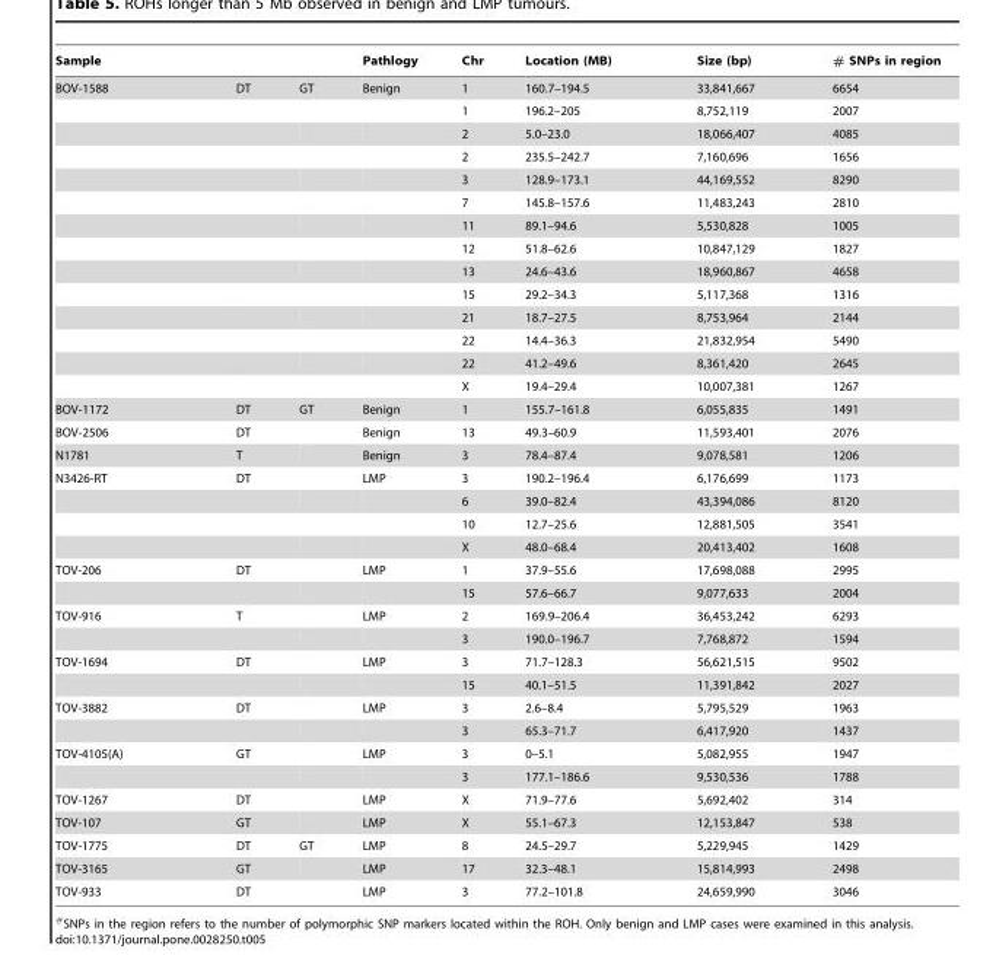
<table><thead><tr><td colspan="3">Sample</td><td rowspan="2">Pathlogy Benign</td><td rowspan="2">Chr 1</td><td rowspan="2">Location (MB) 160.7–194.5</td><td rowspan="2">Size (bp) 33,841,667</td><td rowspan="2"># SNPs in region 6654</td></tr><tr><td>BOV-1588</td><td>DT</td><td>GT</td></tr></thead><tbody><tr><td></td><td></td><td></td><td></td><td>1</td><td>196.2–205</td><td>8,752,119</td><td>2007</td></tr><tr><td></td><td></td><td></td><td></td><td>2</td><td>5.0–23.0</td><td>18,066,407</td><td>4085</td></tr><tr><td></td><td></td><td></td><td></td><td>2</td><td>235.5–242.7</td><td>7,160,696</td><td>1656</td></tr><tr><td></td><td></td><td></td><td></td><td>3</td><td>128.9–173.1</td><td>44,169,552</td><td>8290</td></tr><tr><td></td><td></td><td></td><td></td><td>7</td><td>145.8–157.6</td><td>11,483,243</td><td>2810</td></tr><tr><td></td><td></td><td></td><td></td><td>11</td><td>89.1–94.6</td><td>5,530,828</td><td>1005</td></tr><tr><td></td><td></td><td></td><td></td><td>12</td><td>51.8–62.6</td><td>10,847,129</td><td>1827</td></tr><tr><td></td><td></td><td></td><td></td><td>13</td><td>24.6–43.6</td><td>18,960,867</td><td>4658</td></tr><tr><td></td><td></td><td></td><td></td><td>15</td><td>29.2–34.3</td><td>5,117,368</td><td>1316</td></tr><tr><td></td><td></td><td></td><td></td><td>21</td><td>18.7–27.5</td><td>8,753,964</td><td>2144</td></tr><tr><td></td><td></td><td></td><td></td><td>22</td><td>14.4–36.3</td><td>21,832,954</td><td>5490</td></tr><tr><td></td><td></td><td></td><td></td><td>22</td><td>41.2–49.6</td><td>8,361,420</td><td>2645</td></tr><tr><td></td><td></td><td></td><td></td><td>X</td><td>19.4–29.4</td><td>10,007,381</td><td>1267</td></tr><tr><td>BOV-1172</td><td>DT</td><td>GT</td><td>Benign</td><td>1</td><td>155.7–161.8</td><td>6,055,835</td><td>1491</td></tr><tr><td>BOV-2506</td><td>DT</td><td></td><td>Benign</td><td>13</td><td>49.3–60.9</td><td>11,593,401</td><td>2076</td></tr><tr><td>N1781</td><td>T</td><td></td><td>Benign</td><td>3</td><td>78.4–87.4</td><td>9,078,581</td><td>1206</td></tr><tr><td rowspan="4">N3426-RT</td><td>DT</td><td></td><td>LMP</td><td>3</td><td>190.2–196.4</td><td>6,176,699</td><td>1173</td></tr><tr><td></td><td></td><td></td><td>6</td><td>39.0–82.4</td><td>43,394,086</td><td>8120</td></tr><tr><td></td><td></td><td></td><td>10</td><td>12.7–25.6</td><td>12,881,505</td><td>3541</td></tr><tr><td></td><td></td><td></td><td>X</td><td>48.0–68.4</td><td>20,413,402</td><td>1608</td></tr><tr><td rowspan="2">TOV-206</td><td>DT</td><td></td><td>LMP</td><td>1</td><td>37.9–55.6</td><td>17,698,088</td><td>2995</td></tr><tr><td></td><td></td><td></td><td>15</td><td>57.6–66.7</td><td>9,077,633</td><td>2004</td></tr><tr><td rowspan="2">TOV-916</td><td>T</td><td></td><td>LMP</td><td>2</td><td>169.9–206.4</td><td>36,453,242</td><td>6293</td></tr><tr><td></td><td></td><td></td><td>3</td><td>190.0–196.7</td><td>7,768,872</td><td>1594</td></tr><tr><td rowspan="2">TOV-1694</td><td>DT</td><td></td><td>LMP</td><td>3</td><td>71.7–128.3</td><td>56,621,515</td><td>9502</td></tr><tr><td></td><td></td><td></td><td>15</td><td>40.1–51.5</td><td>11,391,842</td><td>2027</td></tr><tr><td rowspan="2">TOV-3882</td><td>DT</td><td></td><td>LMP</td><td>3</td><td>2.6–8.4</td><td>5,795,529</td><td>1963</td></tr><tr><td></td><td></td><td></td><td>3</td><td>65.3–71.7</td><td>6,417,920</td><td>1437</td></tr><tr><td rowspan="2">TOV-4105(A)</td><td>GT</td><td></td><td>LMP</td><td>3</td><td>0–5.1</td><td>5,082,955</td><td>1947</td></tr><tr><td></td><td></td><td></td><td>3</td><td>177.1–186.6</td><td>9,530,536</td><td>1788</td></tr><tr><td>TOV-1267</td><td>DT</td><td></td><td>LMP</td><td>X</td><td>71.9–77.6</td><td>5,692,402</td><td>314</td></tr><tr><td>TOV-107</td><td>GT</td><td></td><td>LMP</td><td>X</td><td>55.1–67.3</td><td>12,153,847</td><td>538</td></tr><tr><td>TOV-1775</td><td>DT</td><td>GT</td><td>LMP</td><td>8</td><td>24.5–29.7</td><td>5,229,945</td><td>1429</td></tr><tr><td>TOV-3165</td><td>GT</td><td></td><td>LMP</td><td>17</td><td>32.3–48.1</td><td>15,814,993</td><td>2498</td></tr><tr><td>TOV-933</td><td>DT</td><td></td><td>LMP</td><td>3</td><td>77.2–101.8</td><td>24,659,990</td><td>3046</td></tr></tbody></table>